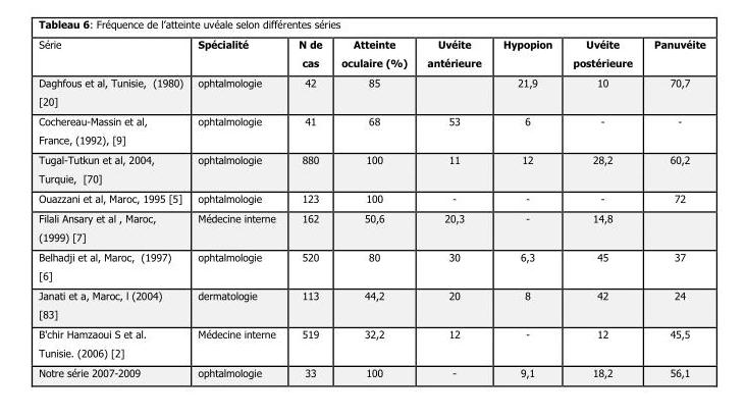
<table><thead><tr><td>Série</td><td>Spécialité</td><td>N de cas</td><td>Atteinte oculaire (%)</td><td>Uvéite antérieure</td><td>Hypopion</td><td>Uvéite postérieure</td><td>Panuvéite</td></tr></thead><tbody><tr><td>Daghfous et al, Tunisie, (1980) [20]</td><td>ophtalmologie</td><td>42</td><td>85</td><td></td><td>21,9</td><td>10</td><td>70,7</td></tr><tr><td>Cochereau-Massin et al, France, (1992), [9]</td><td>ophtalmologie</td><td>41</td><td>68</td><td>53</td><td>6</td><td>-</td><td>-</td></tr><tr><td>Tugal-Tutkun et al, 2004, Turquie, [70]</td><td>ophtalmologie</td><td>880</td><td>100</td><td>11</td><td>12</td><td>28,2</td><td>60,2</td></tr><tr><td>Ouazzani et al, Maroc, 1995 [5]</td><td>ophtalmologie</td><td>123</td><td>100</td><td>-</td><td>-</td><td>-</td><td>72</td></tr><tr><td>Filali Ansary et al , Maroc, (1999) [7]</td><td>Médecine interne</td><td>162</td><td>50,6</td><td>20,3</td><td>-</td><td>14,8</td><td></td></tr><tr><td>Belhadji et al, Maroc, (1997) [6]</td><td>ophtalmologie</td><td>520</td><td>80</td><td>30</td><td>6,3</td><td>45</td><td>37</td></tr><tr><td>Janati et a, Maroc, l (2004) [83]</td><td>dermatologie</td><td>113</td><td>44,2</td><td>20</td><td>8</td><td>42</td><td>24</td></tr><tr><td>B&#x27;chir Hamzaoui S et al. Tunisie. (2006) [2]</td><td>Médecine interne</td><td>519</td><td>32,2</td><td>12</td><td>-</td><td>12</td><td>45,5</td></tr><tr><td>Notre série 2007-2009</td><td>ophtalmologie</td><td>33</td><td>100</td><td>-</td><td>9,1</td><td>18,2</td><td>56,1</td></tr></tbody></table>